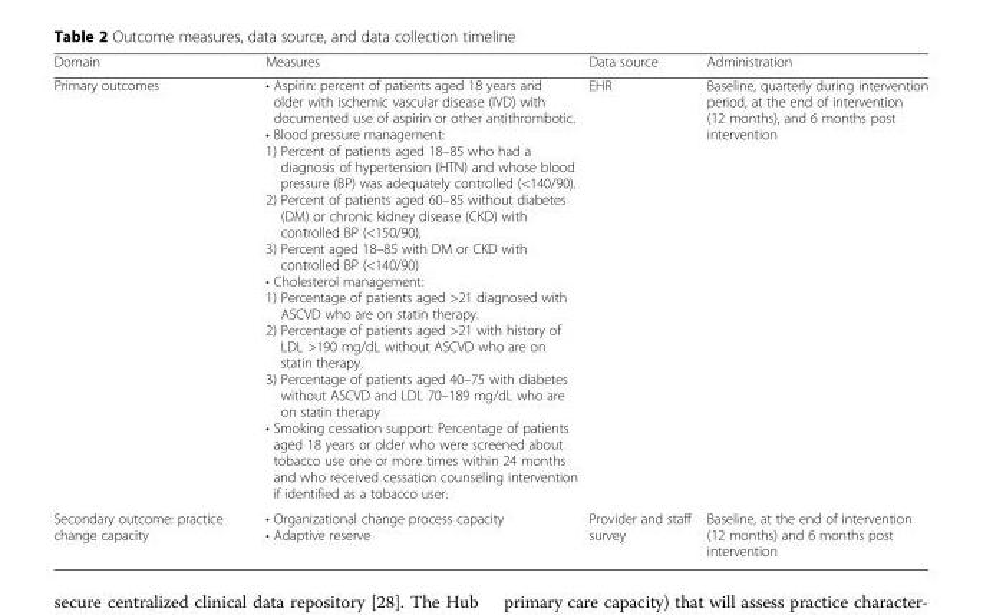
<table><thead><tr><td>Domain</td><td>Measures</td><td>Data source</td><td>Administration</td></tr></thead><tbody><tr><td>Primary outcomes</td><td>• Aspirin: percent of patients aged 18 years and older with ischemic vascular disease (IVD) with documented use of aspirin or other antithrombotic. • Blood pressure management: 1) Percent of patients aged 18–85 who had a diagnosis of hypertension (HTN) and whose blood pressure (BP) was adequately controlled (&lt;140/90). 2) Percent of patients aged 60–85 without diabetes (DM) or chronic kidney disease (CKD) with controlled BP (&lt;150/90), 3) Percent aged 18–85 with DM or CKD with controlled BP (&lt;140/90) • Cholesterol management: 1) Percentage of patients aged &gt;21 diagnosed with ASCVD who are on statin therapy. 2) Percentage of patients aged &gt;21 with history of LDL &gt;190 mg/dL without ASCVD who are on statin therapy. 3) Percentage of patients aged 40–75 with diabetes without ASCVD and LDL 70–189 mg/dL who are on statin therapy • Smoking cessation support: Percentage of patients aged 18 years or older who were screened about tobacco use one or more times within 24 months and who received cessation counseling intervention if identified as a tobacco user.</td><td>EHR</td><td>Baseline, quarterly during intervention period, at the end of intervention (12 months), and 6 months post intervention</td></tr><tr><td>Secondary outcome: practice change capacity</td><td>• Organizational change process capacity • Adaptive reserve</td><td>Provider and staff survey</td><td>Baseline, at the end of intervention (12 months) and 6 months post intervention</td></tr></tbody></table>